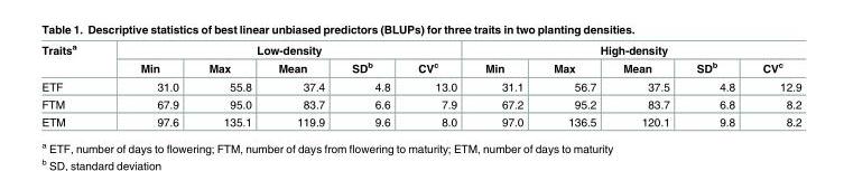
<table><thead><tr><td rowspan="2">Traits<sup>a</sup></td><td colspan="5">Low-density</td><td colspan="5">High-density</td></tr><tr><td>Min</td><td>Max</td><td>Mean</td><td>SD<sup>b</sup></td><td>CV<sup>c</sup></td><td>Min</td><td>Max</td><td>Mean</td><td>SD<sup>b</sup></td><td>CV<sup>c</sup></td></tr></thead><tbody><tr><td>ETF</td><td>31.0</td><td>55.8</td><td>37.4</td><td>4.8</td><td>13.0</td><td>31.1</td><td>56.7</td><td>37.5</td><td>4.8</td><td>12.9</td></tr><tr><td>FTM</td><td>67.9</td><td>95.0</td><td>83.7</td><td>6.6</td><td>7.9</td><td>67.2</td><td>95.2</td><td>83.7</td><td>6.8</td><td>8.2</td></tr><tr><td>ETM</td><td>97.6</td><td>135.1</td><td>119.9</td><td>9.6</td><td>8.0</td><td>97.0</td><td>136.5</td><td>120.1</td><td>9.8</td><td>8.2</td></tr></tbody></table>